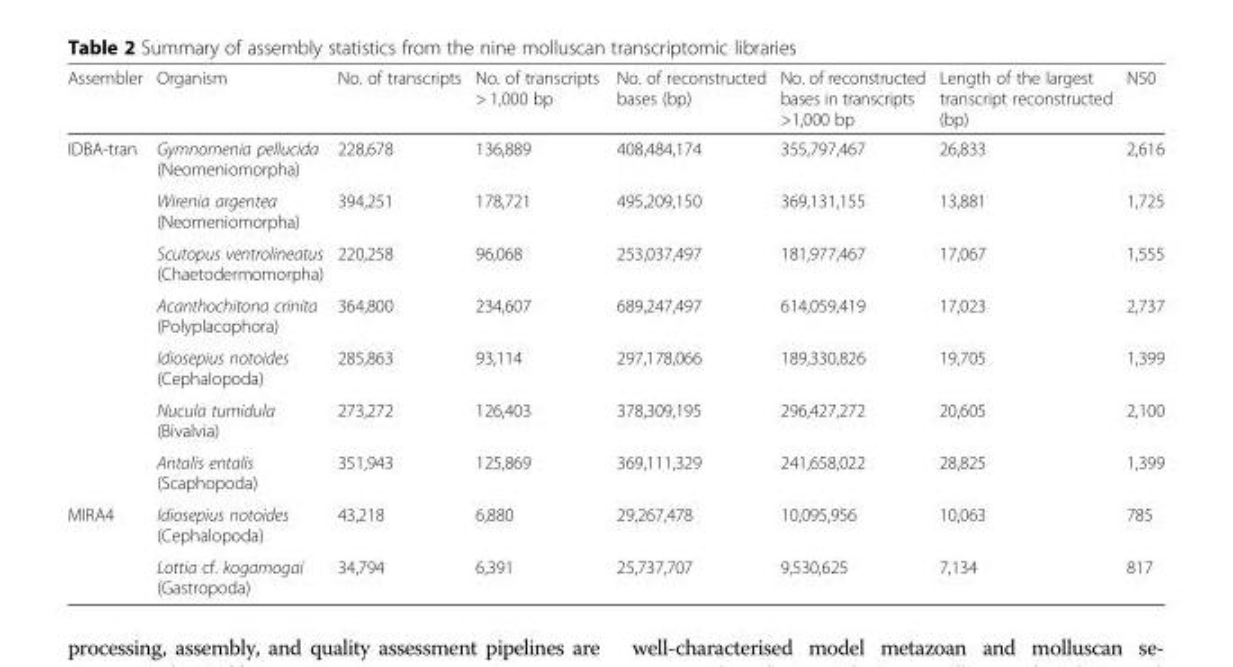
<table><thead><tr><td>Assembler</td><td>Organism</td><td>No. of transcripts</td><td>No. of transcripts &gt; 1,000 bp</td><td>No. of reconstructed bases (bp)</td><td>No. of reconstructed bases in transcripts &gt;1,000 bp</td><td>Length of the largest transcript reconstructed (bp)</td><td>N50</td></tr></thead><tbody><tr><td rowspan="7">IDBA-tran</td><td>Gymnomenia pellucida (Neomeniomorpha)</td><td>228,678</td><td>136,889</td><td>408,484,174</td><td>355,797,467</td><td>26,833</td><td>2,616</td></tr><tr><td>Wirenia argentea (Neomeniomorpha)</td><td>394,251</td><td>178,721</td><td>495,209,150</td><td>369,131,155</td><td>13,881</td><td>1,725</td></tr><tr><td>Scutopus ventrolineatus (Chaetodermomorpha)</td><td>220,258</td><td>96,068</td><td>253,037,497</td><td>181,977,467</td><td>17,067</td><td>1,555</td></tr><tr><td>Acanthochitona crinita (Polyplacophora)</td><td>364,800</td><td>234,607</td><td>689,247,497</td><td>614,059,419</td><td>17,023</td><td>2,737</td></tr><tr><td>Idiosepius notoides (Cephalopoda)</td><td>285,863</td><td>93,114</td><td>297,178,066</td><td>189,330,826</td><td>19,705</td><td>1,399</td></tr><tr><td>Nucula tumidula (Bivalvia)</td><td>273,272</td><td>126,403</td><td>378,309,195</td><td>296,427,272</td><td>20,605</td><td>2,100</td></tr><tr><td>Antalis entalis (Scaphopoda)</td><td>351,943</td><td>125,869</td><td>369,111,329</td><td>241,658,022</td><td>28,825</td><td>1,399</td></tr><tr><td rowspan="2">MIRA4</td><td>Idiosepius notoides (Cephalopoda)</td><td>43,218</td><td>6,880</td><td>29,267,478</td><td>10,095,956</td><td>10,063</td><td>785</td></tr><tr><td>Lottia cf. kogamogai (Gastropoda)</td><td>34,794</td><td>6,391</td><td>25,737,707</td><td>9,530,625</td><td>7,134</td><td>817</td></tr></tbody></table>